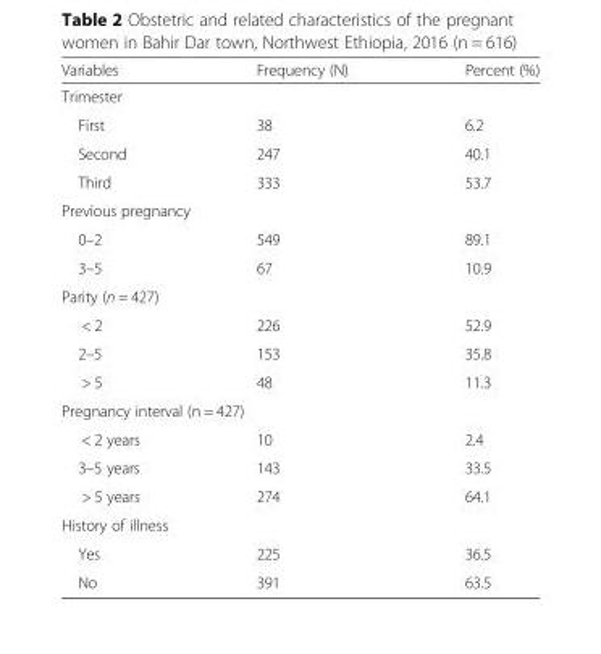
<table><thead><tr><td>Variables</td><td>Frequency (N)</td><td>Percent (%)</td></tr></thead><tbody><tr><td colspan="3">Trimester</td></tr><tr><td>First</td><td>38</td><td>6.2</td></tr><tr><td>Second</td><td>247</td><td>40.1</td></tr><tr><td>Third</td><td>333</td><td>53.7</td></tr><tr><td colspan="3">Previous pregnancy</td></tr><tr><td>0–2</td><td>549</td><td>89.1</td></tr><tr><td>3–5</td><td>67</td><td>10.9</td></tr><tr><td colspan="3">Parity (n = 427)</td></tr><tr><td>&lt; 2</td><td>226</td><td>52.9</td></tr><tr><td>2–5</td><td>153</td><td>35.8</td></tr><tr><td>&gt; 5</td><td>48</td><td>11.3</td></tr><tr><td colspan="3">Pregnancy interval (n = 427)</td></tr><tr><td>&lt; 2 years</td><td>10</td><td>2.4</td></tr><tr><td>3–5 years</td><td>143</td><td>33.5</td></tr><tr><td>&gt; 5 years</td><td>274</td><td>64.1</td></tr><tr><td colspan="3">History of illness</td></tr><tr><td>Yes</td><td>225</td><td>36.5</td></tr><tr><td>No</td><td>391</td><td>63.5</td></tr></tbody></table>